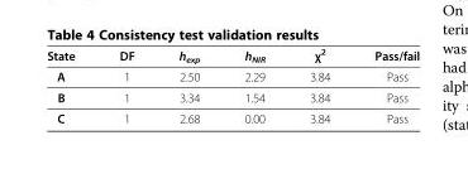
<table><thead><tr><td>State</td><td>DF</td><td>h<sub>exp</sub></td><td>h<sub>NIR</sub></td><td>χ<sup>2</sup></td><td>Pass/fail</td></tr></thead><tbody><tr><td>A</td><td>1</td><td>2.50</td><td>2.29</td><td>3.84</td><td>Pass</td></tr><tr><td>B</td><td>1</td><td>3.34</td><td>1.54</td><td>3.84</td><td>Pass</td></tr><tr><td>C</td><td>1</td><td>2.68</td><td>0.00</td><td>3.84</td><td>Pass</td></tr></tbody></table>